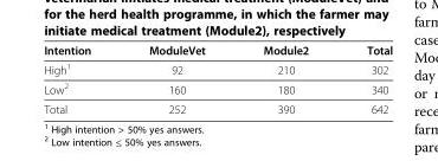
<table><thead><tr><td>Intention</td><td>ModuleVet</td><td>Module2</td><td>Total</td></tr></thead><tbody><tr><td>High<sup>1</sup></td><td>92</td><td>210</td><td>302</td></tr><tr><td>Low<sup>2</sup></td><td>160</td><td>180</td><td>340</td></tr><tr><td>Total</td><td>252</td><td>390</td><td>642</td></tr></tbody></table>